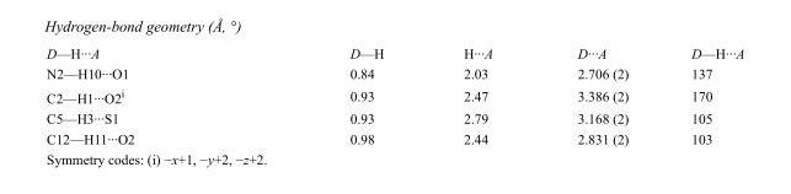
<table><tbody><tr><td>D—H···A</td><td>D—H</td><td>H···A</td><td>D···A</td><td>D—H···A</td></tr><tr><td>N2—H10···O1</td><td>0.84</td><td>2.03</td><td>2.706 (2)</td><td>137</td></tr><tr><td>C2—H1···O2<sup>i</sup></td><td>0.93</td><td>2.47</td><td>3.386 (2)</td><td>170</td></tr><tr><td>C5—H3···S1</td><td>0.93</td><td>2.79</td><td>3.168 (2)</td><td>105</td></tr><tr><td>C12—H11···O2</td><td>0.98</td><td>2.44</td><td>2.831 (2)</td><td>103</td></tr></tbody></table>